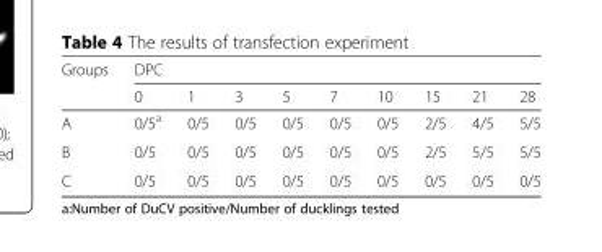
<table><thead><tr><td rowspan="2">Groups</td><td colspan="9">DPC</td></tr><tr><td>0</td><td>1</td><td>3</td><td>5</td><td>7</td><td>10</td><td>15</td><td>21</td><td>28</td></tr></thead><tbody><tr><td>A</td><td>0/5<sup>a</sup></td><td>0/5</td><td>0/5</td><td>0/5</td><td>0/5</td><td>0/5</td><td>2/5</td><td>4/5</td><td>5/5</td></tr><tr><td>B</td><td>0/5</td><td>0/5</td><td>0/5</td><td>0/5</td><td>0/5</td><td>0/5</td><td>2/5</td><td>5/5</td><td>5/5</td></tr><tr><td>C</td><td>0/5</td><td>0/5</td><td>0/5</td><td>0/5</td><td>0/5</td><td>0/5</td><td>0/5</td><td>0/5</td><td>0/5</td></tr></tbody></table>